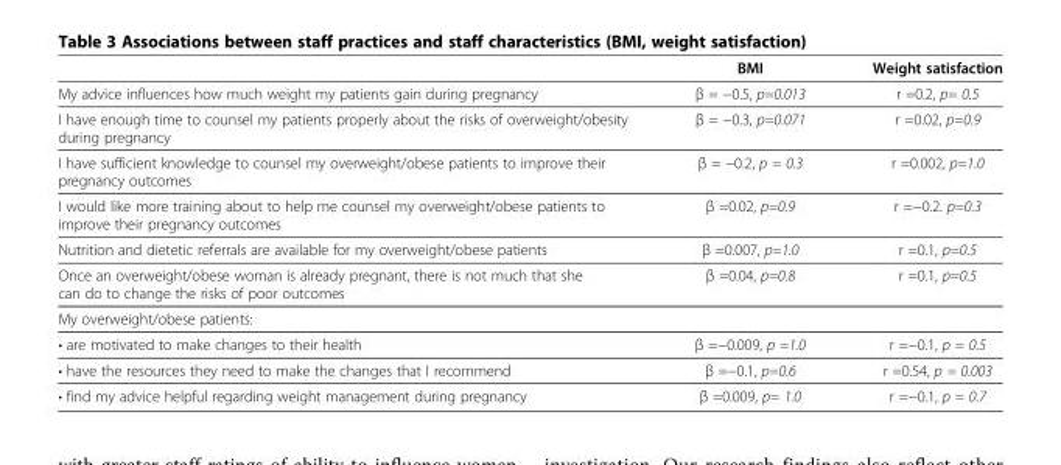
<table><thead><tr><td></td><td>BMI</td><td>Weight satisfaction</td></tr></thead><tbody><tr><td>My advice influences how much weight my patients gain during pregnancy</td><td>β = −0.5, p=0.013</td><td>r =0.2, p= 0.5</td></tr><tr><td>I have enough time to counsel my patients properly about the risks of overweight/obesity during pregnancy</td><td>β = −0.3, p=0.071</td><td>r =0.02, p=0.9</td></tr><tr><td>I have sufficient knowledge to counsel my overweight/obese patients to improve their pregnancy outcomes</td><td>β = −0.2, p = 0.3</td><td>r =0.002, p=1.0</td></tr><tr><td>I would like more training about to help me counsel my overweight/obese patients to improve their pregnancy outcomes</td><td>β =0.02, p=0.9</td><td>r =−0.2. p=0.3</td></tr><tr><td>Nutrition and dietetic referrals are available for my overweight/obese patients</td><td>β =0.007, p=1.0</td><td>r =0.1, p=0.5</td></tr><tr><td>Once an overweight/obese woman is already pregnant, there is not much that she can do to change the risks of poor outcomes</td><td>β =0.04, p=0.8</td><td>r =0.1, p=0.5</td></tr><tr><td colspan="3">My overweight/obese patients:</td></tr><tr><td>• are motivated to make changes to their health</td><td>β =−0.009, p =1.0</td><td>r =−0.1, p = 0.5</td></tr><tr><td>• have the resources they need to make the changes that I recommend</td><td>β =−0.1, p=0.6</td><td>r =0.54, p = 0.003</td></tr><tr><td>• find my advice helpful regarding weight management during pregnancy</td><td>β =0.009, p= 1.0</td><td>r =−0.1, p = 0.7</td></tr></tbody></table>